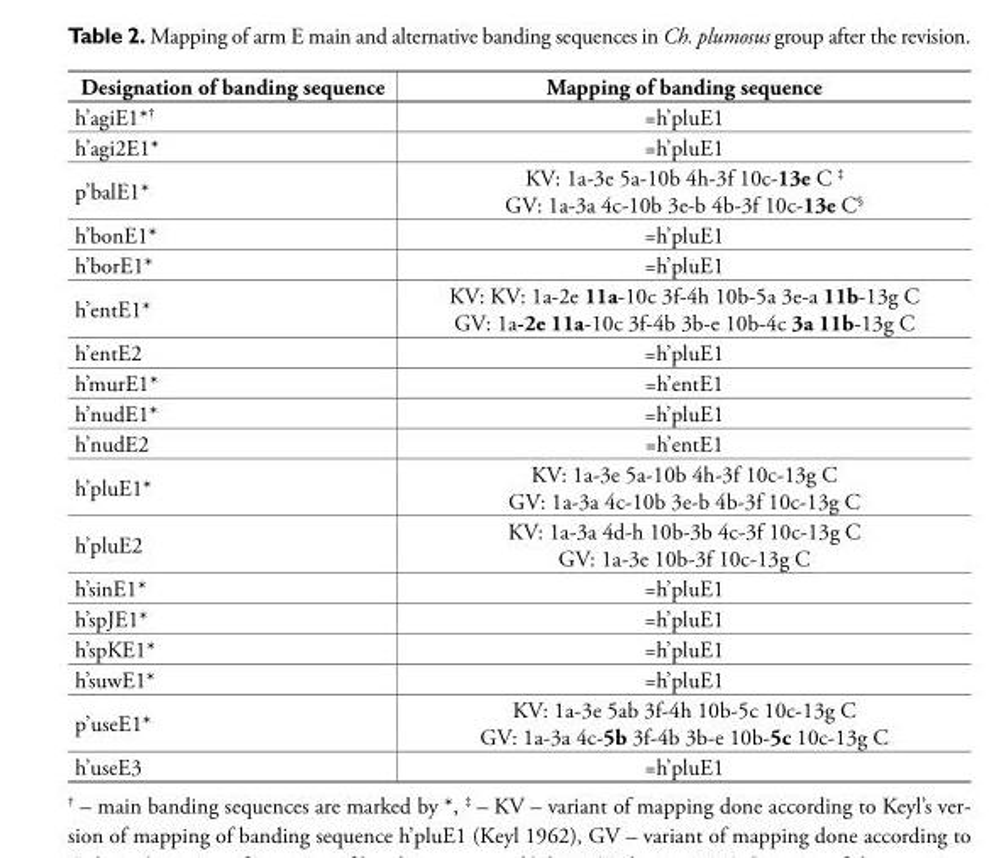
<table><tbody><tr><td>Designation of banding sequence</td><td>Mapping of banding sequence</td></tr><tr><td>h’agiE1*<sup>†</sup></td><td>=h’pluE1</td></tr><tr><td>h’agi2E1*</td><td>=h’pluE1</td></tr><tr><td>p’balE1*</td><td>KV: 1a-3e 5a-10b 4h-3f 10c-13e C <sup>‡</sup> GV: 1a-3a 4c-10b 3e-b 4b-3f 10c-13e C<sup>§</sup></td></tr><tr><td>h’bonE1*</td><td>=h’pluE1</td></tr><tr><td>h’borE1*</td><td>=h’pluE1</td></tr><tr><td>h’entE1*</td><td>KV: KV: 1a-2e 11a-10c 3f-4h 10b-5a 3e-a 11b-13g C GV: 1a-2e 11a-10c 3f-4b 3b-e 10b-4c 3a 11b-13g C</td></tr><tr><td>h’entE2</td><td>=h’pluE1</td></tr><tr><td>h’murE1*</td><td>=h’entE1</td></tr><tr><td>h’nudE1*</td><td>=h’pluE1</td></tr><tr><td>h’nudE2</td><td>=h’entE1</td></tr><tr><td>h’pluE1*</td><td>KV: 1a-3e 5a-10b 4h-3f 10c-13g C GV: 1a-3a 4c-10b 3e-b 4b-3f 10c-13g C</td></tr><tr><td>h’pluE2</td><td>KV: 1a-3a 4d-h 10b-3b 4c-3f 10c-13g C GV: 1a-3e 10b-3f 10c-13g C</td></tr><tr><td>h’sinE1*</td><td>=h’pluE1</td></tr><tr><td>h’spJE1*</td><td>=h’pluE1</td></tr><tr><td>h’spKE1*</td><td>=h’pluE1</td></tr><tr><td>h’suwE1*</td><td>=h’pluE1</td></tr><tr><td>p’useE1*</td><td>KV: 1a-3e 5ab 3f-4h 10b-5c 10c-13g C GV: 1a-3a 4c-5b 3f-4b 3b-e 10b-5c 10c-13g C</td></tr><tr><td>h’useE3</td><td>=h’pluE1</td></tr></tbody></table>